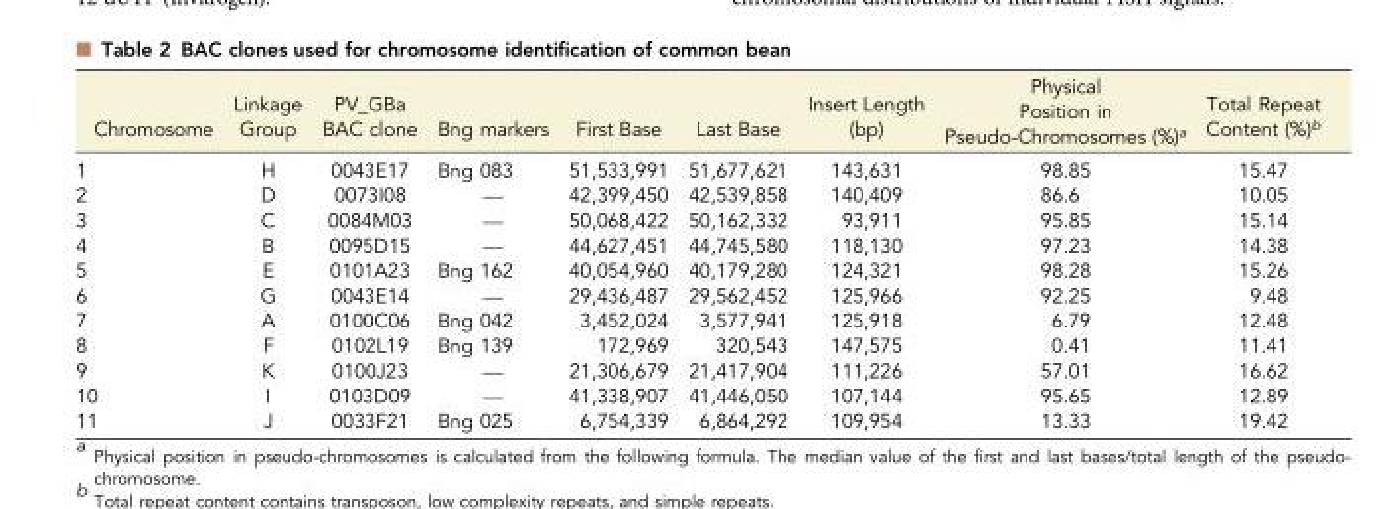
<table><thead><tr><td>Chromosome</td><td>Linkage Group</td><td>PV_GBa BAC clone</td><td>Bng markers</td><td>First Base</td><td>Last Base</td><td>Insert Length (bp)</td><td>Physical Position in Pseudo-Chromosomes (%)<sup>a</sup></td><td>Total Repeat Content (%)<sup>b</sup></td></tr></thead><tbody><tr><td>1</td><td>H</td><td>0043E17</td><td>Bng 083</td><td>51,533,991</td><td>51,677,621</td><td>143,631</td><td>98.85</td><td>15.47</td></tr><tr><td>2</td><td>D</td><td>0073I08</td><td>—</td><td>42,399,450</td><td>42,539,858</td><td>140,409</td><td>86.6</td><td>10.05</td></tr><tr><td>3</td><td>C</td><td>0084M03</td><td>—</td><td>50,068,422</td><td>50,162,332</td><td>93,911</td><td>95.85</td><td>15.14</td></tr><tr><td>4</td><td>B</td><td>0095D15</td><td>—</td><td>44,627,451</td><td>44,745,580</td><td>118,130</td><td>97.23</td><td>14.38</td></tr><tr><td>5</td><td>E</td><td>0101A23</td><td>Bng 162</td><td>40,054,960</td><td>40,179,280</td><td>124,321</td><td>98.28</td><td>15.26</td></tr><tr><td>6</td><td>G</td><td>0043E14</td><td>—</td><td>29,436,487</td><td>29,562,452</td><td>125,966</td><td>92.25</td><td>9.48</td></tr><tr><td>7</td><td>A</td><td>0100C06</td><td>Bng 042</td><td>3,452,024</td><td>3,577,941</td><td>125,918</td><td>6.79</td><td>12.48</td></tr><tr><td>8</td><td>F</td><td>0102L19</td><td>Bng 139</td><td>172,969</td><td>320,543</td><td>147,575</td><td>0.41</td><td>11.41</td></tr><tr><td>9</td><td>K</td><td>0100J23</td><td>—</td><td>21,306,679</td><td>21,417,904</td><td>111,226</td><td>57.01</td><td>16.62</td></tr><tr><td>10</td><td>I</td><td>0103D09</td><td>—</td><td>41,338,907</td><td>41,446,050</td><td>107,144</td><td>95.65</td><td>12.89</td></tr><tr><td>11</td><td>J</td><td>0033F21</td><td>Bng 025</td><td>6,754,339</td><td>6,864,292</td><td>109,954</td><td>13.33</td><td>19.42</td></tr></tbody></table>